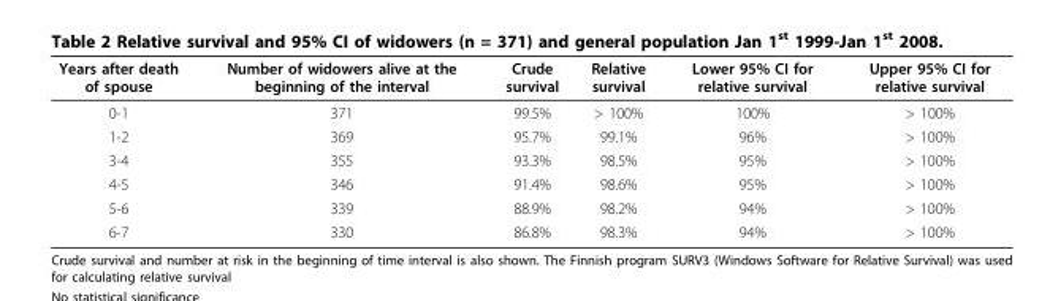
<table><thead><tr><td>Years after death of spouse</td><td>Number of widowers alive at the beginning of the interval</td><td>Crude survival</td><td>Relative survival</td><td>Lower 95% CI for relative survival</td><td>Upper 95% CI for relative survival</td></tr></thead><tbody><tr><td>0-1</td><td>371</td><td>99.5%</td><td>&gt; 100%</td><td>100%</td><td>&gt; 100%</td></tr><tr><td>1-2</td><td>369</td><td>95.7%</td><td>99.1%</td><td>96%</td><td>&gt; 100%</td></tr><tr><td>3-4</td><td>355</td><td>93.3%</td><td>98.5%</td><td>95%</td><td>&gt; 100%</td></tr><tr><td>4-5</td><td>346</td><td>91.4%</td><td>98.6%</td><td>95%</td><td>&gt; 100%</td></tr><tr><td>5-6</td><td>339</td><td>88.9%</td><td>98.2%</td><td>94%</td><td>&gt; 100%</td></tr><tr><td>6-7</td><td>330</td><td>86.8%</td><td>98.3%</td><td>94%</td><td>&gt; 100%</td></tr></tbody></table>